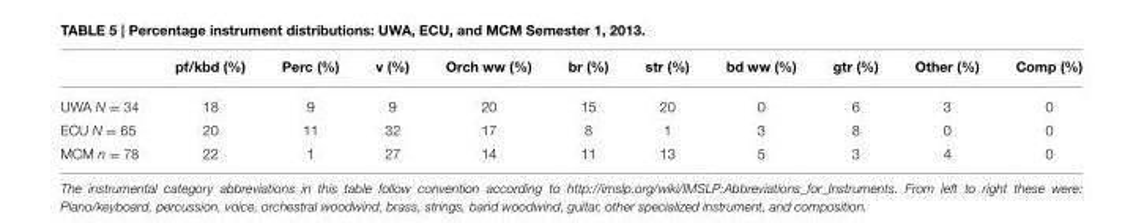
<table><thead><tr><td></td><td>pf/kbd (%)</td><td>Perc (%)</td><td>v (%)</td><td>Orch ww (%)</td><td>br (%)</td><td>str (%)</td><td>bd ww (%)</td><td>gtr (%)</td><td>Other (%)</td><td>Comp (%)</td></tr></thead><tbody><tr><td>UWA N = 34</td><td>18</td><td>9</td><td>9</td><td>20</td><td>15</td><td>20</td><td>0</td><td>6</td><td>3</td><td>0</td></tr><tr><td>ECU N = 65</td><td>20</td><td>11</td><td>32</td><td>17</td><td>8</td><td>1</td><td>3</td><td>8</td><td>0</td><td>0</td></tr><tr><td>MCM n = 78</td><td>22</td><td>1</td><td>27</td><td>14</td><td>11</td><td>13</td><td>5</td><td>3</td><td>4</td><td>0</td></tr></tbody></table>